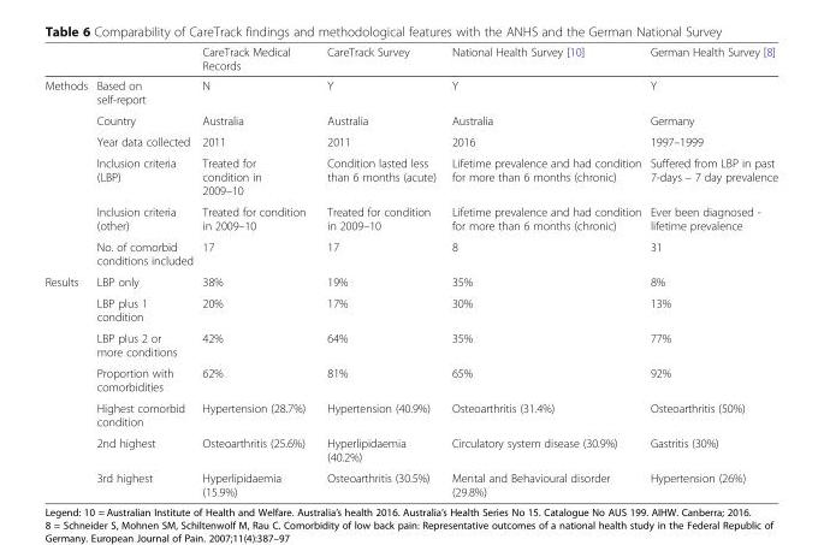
<table><thead><tr><td></td><td></td><td>CareTrack Medical Records</td><td>CareTrack Survey</td><td>National Health Survey [10]</td><td>German Health Survey [8]</td></tr></thead><tbody><tr><td rowspan="6">Methods</td><td>Based on self-report</td><td>N</td><td>Y</td><td>Y</td><td>Y</td></tr><tr><td>Country</td><td>Australia</td><td>Australia</td><td>Australia</td><td>Germany</td></tr><tr><td>Year data collected</td><td>2011</td><td>2011</td><td>2016</td><td>1997–1999</td></tr><tr><td>Inclusion criteria (LBP)</td><td>Treated for condition in 2009–10</td><td>Condition lasted less than 6 months (acute)</td><td>Lifetime prevalence and had condition for more than 6 months (chronic)</td><td>Suffered from LBP in past 7-days – 7 day prevalence</td></tr><tr><td>Inclusion criteria (other)</td><td>Treated for condition in 2009–10</td><td>Treated for condition in 2009–10</td><td>Lifetime prevalence and had condition for more than 6 months (chronic)</td><td>Ever been diagnosed - lifetime prevalence</td></tr><tr><td>No. of comorbid conditions included</td><td>17</td><td>17</td><td>8</td><td>31</td></tr><tr><td rowspan="7">Results</td><td>LBP only</td><td>38%</td><td>19%</td><td>35%</td><td>8%</td></tr><tr><td>LBP plus 1 condition</td><td>20%</td><td>17%</td><td>30%</td><td>13%</td></tr><tr><td>LBP plus 2 or more conditions</td><td>42%</td><td>64%</td><td>35%</td><td>77%</td></tr><tr><td>Proportion with comorbidities</td><td>62%</td><td>81%</td><td>65%</td><td>92%</td></tr><tr><td>Highest comorbid condition</td><td>Hypertension (28.7%)</td><td>Hypertension (40.9%)</td><td>Osteoarthritis (31.4%)</td><td>Osteoarthritis (50%)</td></tr><tr><td>2nd highest</td><td>Osteoarthritis (25.6%)</td><td>Hyperlipidaemia (40.2%)</td><td>Circulatory system disease (30.9%)</td><td>Gastritis (30%)</td></tr><tr><td>3rd highest</td><td>Hyperlipidaemia (15.9%)</td><td>Osteoarthritis (30.5%)</td><td>Mental and Behavioural disorder (29.8%)</td><td>Hypertension (26%)</td></tr></tbody></table>